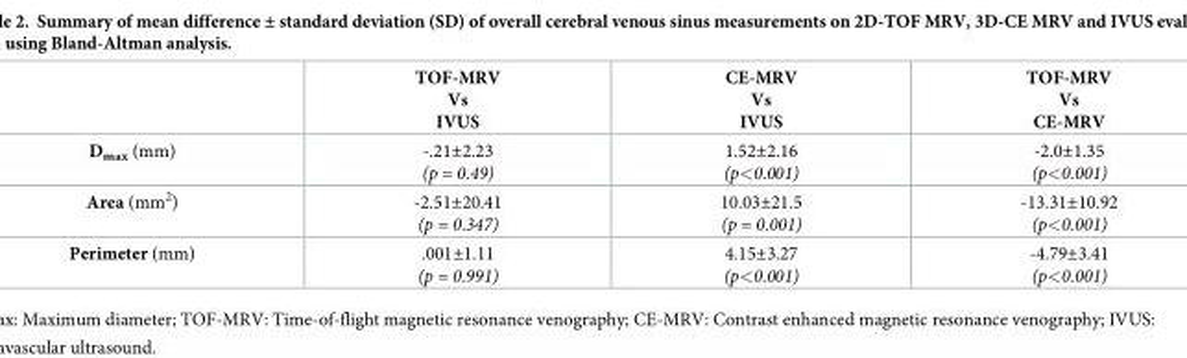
<table><thead><tr><td></td><td>TOF-MRV Vs IVUS</td><td>CE-MRV Vs IVUS</td><td>TOF-MRV Vs CE-MRV</td></tr></thead><tbody><tr><td>D<sub>max</sub> (mm)</td><td>-.21±2.23 (p = 0.49)</td><td>1.52±2.16 (p&lt;0.001)</td><td>-2.0±1.35 (p&lt;0.001)</td></tr><tr><td>Area (mm<sup>2</sup>)</td><td>-2.51±20.41 (p = 0.347)</td><td>10.03±21.5 (p = 0.001)</td><td>-13.31±10.92 (p&lt;0.001)</td></tr><tr><td>Perimeter (mm)</td><td>.001±1.11 (p = 0.991)</td><td>4.15±3.27 (p&lt;0.001)</td><td>-4.79±3.41 (p&lt;0.001)</td></tr></tbody></table>